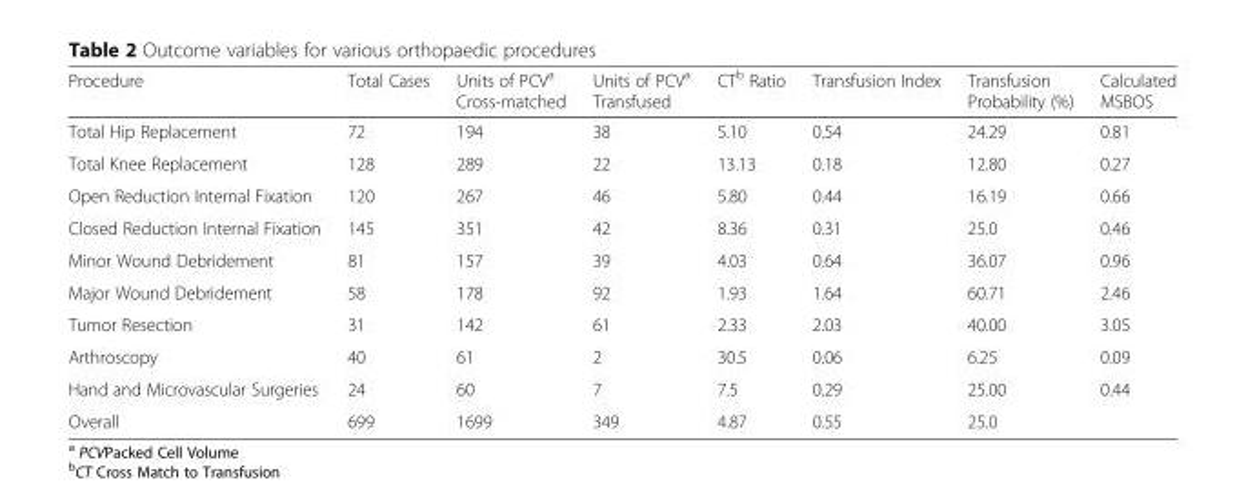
<table><thead><tr><td>Procedure</td><td>Total Cases</td><td>Units of PCV<sup>a</sup> Cross-matched</td><td>Units of PCV<sup>a</sup> Transfused</td><td>CT<sup>b</sup> Ratio</td><td>Transfusion Index</td><td>Transfusion Probability (%)</td><td>Calculated MSBOS</td></tr></thead><tbody><tr><td>Total Hip Replacement</td><td>72</td><td>194</td><td>38</td><td>5.10</td><td>0.54</td><td>24.29</td><td>0.81</td></tr><tr><td>Total Knee Replacement</td><td>128</td><td>289</td><td>22</td><td>13.13</td><td>0.18</td><td>12.80</td><td>0.27</td></tr><tr><td>Open Reduction Internal Fixation</td><td>120</td><td>267</td><td>46</td><td>5.80</td><td>0.44</td><td>16.19</td><td>0.66</td></tr><tr><td>Closed Reduction Internal Fixation</td><td>145</td><td>351</td><td>42</td><td>8.36</td><td>0.31</td><td>25.0</td><td>0.46</td></tr><tr><td>Minor Wound Debridement</td><td>81</td><td>157</td><td>39</td><td>4.03</td><td>0.64</td><td>36.07</td><td>0.96</td></tr><tr><td>Major Wound Debridement</td><td>58</td><td>178</td><td>92</td><td>1.93</td><td>1.64</td><td>60.71</td><td>2.46</td></tr><tr><td>Tumor Resection</td><td>31</td><td>142</td><td>61</td><td>2.33</td><td>2.03</td><td>40.00</td><td>3.05</td></tr><tr><td>Arthroscopy</td><td>40</td><td>61</td><td>2</td><td>30.5</td><td>0.06</td><td>6.25</td><td>0.09</td></tr><tr><td>Hand and Microvascular Surgeries</td><td>24</td><td>60</td><td>7</td><td>7.5</td><td>0.29</td><td>25.00</td><td>0.44</td></tr><tr><td>Overall</td><td>699</td><td>1699</td><td>349</td><td>4.87</td><td>0.55</td><td>25.0</td><td></td></tr></tbody></table>